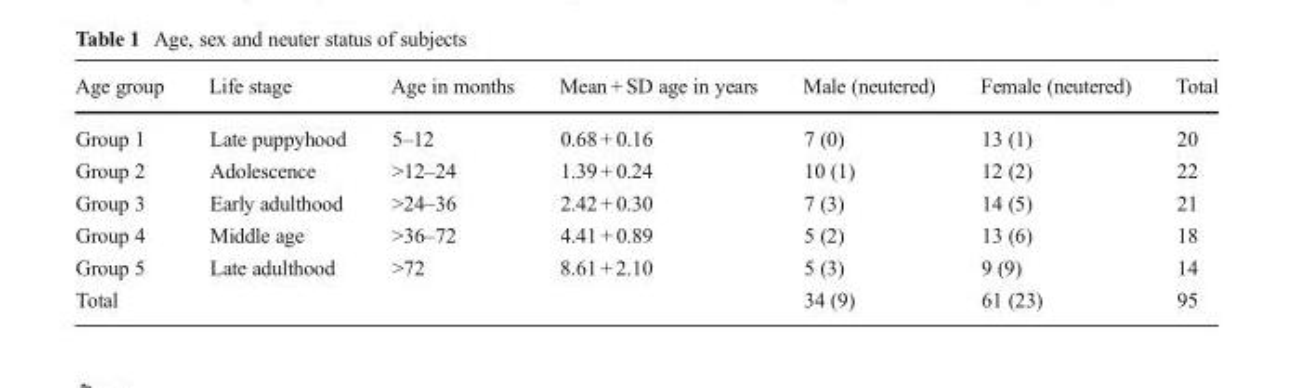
<table><thead><tr><td>Age group</td><td>Life stage</td><td>Age in months</td><td>Mean + SD age in years</td><td>Male (neutered)</td><td>Female (neutered)</td><td>Total</td></tr></thead><tbody><tr><td>Group 1</td><td>Late puppyhood</td><td>5–12</td><td>0.68 + 0.16</td><td>7 (0)</td><td>13 (1)</td><td>20</td></tr><tr><td>Group 2</td><td>Adolescence</td><td>&gt;12–24</td><td>1.39 + 0.24</td><td>10 (1)</td><td>12 (2)</td><td>22</td></tr><tr><td>Group 3</td><td>Early adulthood</td><td>&gt;24–36</td><td>2.42 + 0.30</td><td>7 (3)</td><td>14 (5)</td><td>21</td></tr><tr><td>Group 4</td><td>Middle age</td><td>&gt;36–72</td><td>4.41 + 0.89</td><td>5 (2)</td><td>13 (6)</td><td>18</td></tr><tr><td>Group 5</td><td>Late adulthood</td><td>&gt;72</td><td>8.61 + 2.10</td><td>5 (3)</td><td>9 (9)</td><td>14</td></tr><tr><td>Total</td><td></td><td></td><td></td><td>34 (9)</td><td>61 (23)</td><td>95</td></tr></tbody></table>